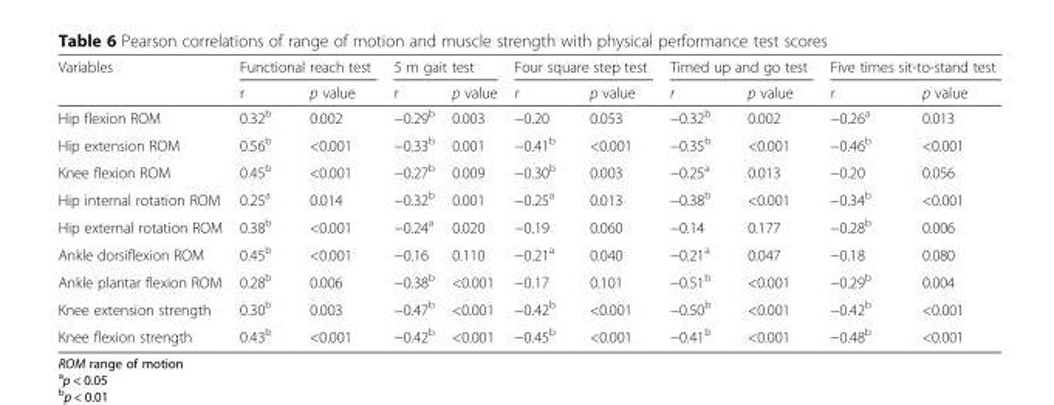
<table><thead><tr><td rowspan="2">Variables</td><td colspan="2">Functional reach test</td><td colspan="2">5 m gait test</td><td colspan="2">Four square step test</td><td colspan="2">Timed up and go test</td><td colspan="2">Five times sit-to-stand test</td></tr><tr><td>r</td><td>p value</td><td>r</td><td>p value</td><td>r</td><td>p value</td><td>r</td><td>p value</td><td>r</td><td>p value</td></tr></thead><tbody><tr><td>Hip flexion ROM</td><td>0.32<sup>b</sup></td><td>0.002</td><td>−0.29<sup>b</sup></td><td>0.003</td><td>−0.20</td><td>0.053</td><td>−0.32<sup>b</sup></td><td>0.002</td><td>−0.26<sup>a</sup></td><td>0.013</td></tr><tr><td>Hip extension ROM</td><td>0.56<sup>b</sup></td><td>&lt;0.001</td><td>−0.33<sup>b</sup></td><td>0.001</td><td>−0.41<sup>b</sup></td><td>&lt;0.001</td><td>−0.35<sup>b</sup></td><td>&lt;0.001</td><td>−0.46<sup>b</sup></td><td>&lt;0.001</td></tr><tr><td>Knee flexion ROM</td><td>0.45<sup>b</sup></td><td>&lt;0.001</td><td>−0.27<sup>b</sup></td><td>0.009</td><td>−0.30<sup>b</sup></td><td>0.003</td><td>−0.25<sup>a</sup></td><td>0.013</td><td>−0.20</td><td>0.056</td></tr><tr><td>Hip internal rotation ROM</td><td>0.25<sup>a</sup></td><td>0.014</td><td>−0.32<sup>b</sup></td><td>0.001</td><td>−0.25<sup>a</sup></td><td>0.013</td><td>−0.38<sup>b</sup></td><td>&lt;0.001</td><td>−0.34<sup>b</sup></td><td>&lt;0.001</td></tr><tr><td>Hip external rotation ROM</td><td>0.38<sup>b</sup></td><td>&lt;0.001</td><td>−0.24<sup>a</sup></td><td>0.020</td><td>−0.19</td><td>0.060</td><td>−0.14</td><td>0.177</td><td>−0.28<sup>b</sup></td><td>0.006</td></tr><tr><td>Ankle dorsiflexion ROM</td><td>0.45<sup>b</sup></td><td>&lt;0.001</td><td>−0.16</td><td>0.110</td><td>−0.21<sup>a</sup></td><td>0.040</td><td>−0.21<sup>a</sup></td><td>0.047</td><td>−0.18</td><td>0.080</td></tr><tr><td>Ankle plantar flexion ROM</td><td>0.28<sup>b</sup></td><td>0.006</td><td>−0.38<sup>b</sup></td><td>&lt;0.001</td><td>−0.17</td><td>0.101</td><td>−0.51<sup>b</sup></td><td>&lt;0.001</td><td>−0.29<sup>b</sup></td><td>0.004</td></tr><tr><td>Knee extension strength</td><td>0.30<sup>b</sup></td><td>0.003</td><td>−0.47<sup>b</sup></td><td>&lt;0.001</td><td>−0.42<sup>b</sup></td><td>&lt;0.001</td><td>−0.50<sup>b</sup></td><td>&lt;0.001</td><td>−0.42<sup>b</sup></td><td>&lt;0.001</td></tr><tr><td>Knee flexion strength</td><td>0.43<sup>b</sup></td><td>&lt;0.001</td><td>−0.42<sup>b</sup></td><td>&lt;0.001</td><td>−0.45<sup>b</sup></td><td>&lt;0.001</td><td>−0.41<sup>b</sup></td><td>&lt;0.001</td><td>−0.48<sup>b</sup></td><td>&lt;0.001</td></tr></tbody></table>